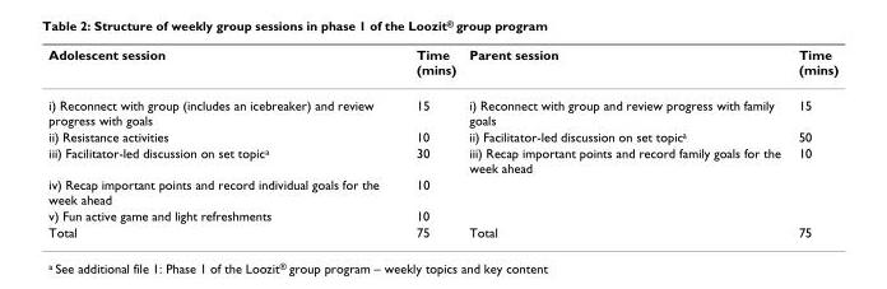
<table><thead><tr><td>Adolescent session</td><td>Time (mins)</td><td>Parent session</td><td>Time (mins)</td></tr></thead><tbody><tr><td>i) Reconnect with group (includes an icebreaker) and review progress with goals</td><td>15</td><td>i) Reconnect with group and review progress with family goals</td><td>15</td></tr><tr><td>ii) Resistance activities</td><td>10</td><td>ii) Facilitator-led discussion on set topic<sup>a</sup></td><td>50</td></tr><tr><td>iii) Facilitator-led discussion on set topic<sup>a</sup></td><td>30</td><td>iii) Recap important points and record family goals for the week ahead</td><td>10</td></tr><tr><td>iv) Recap important points and record individual goals for the week ahead</td><td>10</td><td></td><td></td></tr><tr><td>v) Fun active game and light refreshments</td><td>10</td><td></td><td></td></tr><tr><td>Total</td><td>75</td><td>Total</td><td>75</td></tr></tbody></table>